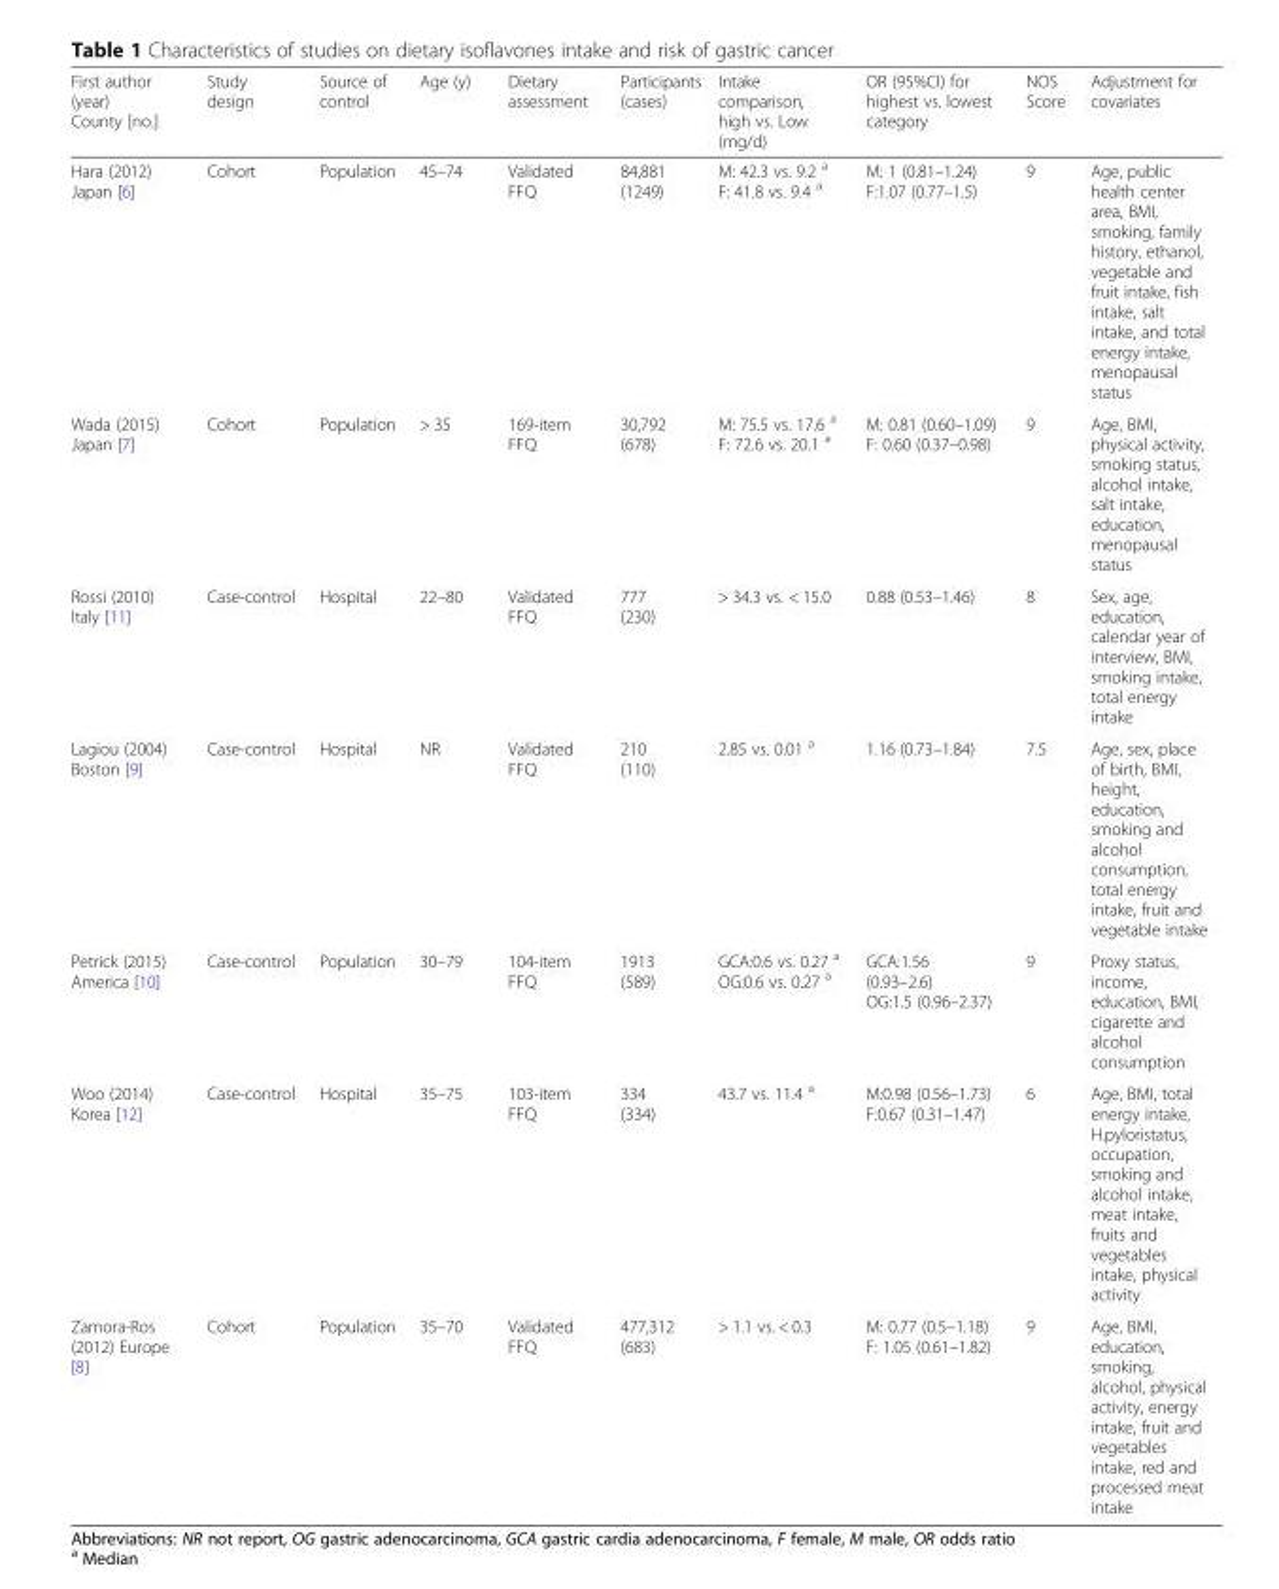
<table><thead><tr><td>First author (year) County [no.]</td><td>Study design</td><td>Source of control</td><td>Age (y)</td><td>Dietary assessment</td><td>Participants (cases)</td><td>Intake comparison, high vs. Low (mg/d)</td><td>OR (95%CI) for highest vs. lowest category</td><td>NOS Score</td><td>Adjustment for covariates</td></tr></thead><tbody><tr><td>Hara (2012) Japan [6]</td><td>Cohort</td><td>Population</td><td>45–74</td><td>Validated FFQ</td><td>84,881 (1249)</td><td>M: 42.3 vs. 9.2 <sup>a</sup> F: 41.8 vs. 9.4 <sup>a</sup></td><td>M: 1 (0.81–1.24) F:1.07 (0.77–1.5)</td><td>9</td><td>Age, public health center area, BMI, smoking, family history, ethanol, vegetable and fruit intake, fish intake, salt intake, and total energy intake, menopausal status</td></tr><tr><td>Wada (2015) Japan [7]</td><td>Cohort</td><td>Population</td><td>&gt; 35</td><td>169-item FFQ</td><td>30,792 (678)</td><td>M: 75.5 vs. 17.6 <sup>a</sup> F: 72.6 vs. 20.1 <sup>a</sup></td><td>M: 0.81 (0.60–1.09) F: 0.60 (0.37–0.98)</td><td>9</td><td>Age, BMI, physical activity, smoking status, alcohol intake, salt intake, education, menopausal status</td></tr><tr><td>Rossi (2010) Italy [11]</td><td>Case-control</td><td>Hospital</td><td>22–80</td><td>Validated FFQ</td><td>777 (230)</td><td>&gt; 34.3 vs. &lt; 15.0</td><td>0.88 (0.53–1.46)</td><td>8</td><td>Sex, age, education, calendar year of interview, BMI, smoking intake, total energy intake</td></tr><tr><td>Lagiou (2004) Boston [9]</td><td>Case-control</td><td>Hospital</td><td>NR</td><td>Validated FFQ</td><td>210 (110)</td><td>2.85 vs. 0.01 <sup>a</sup></td><td>1.16 (0.73–1.84)</td><td>7.5</td><td>Age, sex, place of birth, BMI, height, education, smoking and alcohol consumption, total energy intake, fruit and vegetable intake</td></tr><tr><td>Petrick (2015) America [10]</td><td>Case-control</td><td>Population</td><td>30–79</td><td>104-item FFQ</td><td>1913 (589)</td><td>GCA:0.6 vs. 0.27 <sup>a</sup> OG:0.6 vs. 0.27 <sup>a</sup></td><td>GCA:1.56 (0.93–2.6) OG:1.5 (0.96–2.37)</td><td>9</td><td>Proxy status, income, education, BMI, cigarette and alcohol consumption</td></tr><tr><td>Woo (2014) Korea [12]</td><td>Case-control</td><td>Hospital</td><td>35–75</td><td>103-item FFQ</td><td>334 (334)</td><td>43.7 vs. 11.4 <sup>a</sup></td><td>M:0.98 (0.56–1.73) F:0.67 (0.31–1.47)</td><td>6</td><td>Age, BMI, total energy intake, H.pyloristatus, occupation, smoking and alcohol intake, meat intake, fruits and vegetables intake, physical activity</td></tr><tr><td>Zamora-Ros (2012) Europe [8]</td><td>Cohort</td><td>Population</td><td>35–70</td><td>Validated FFQ</td><td>477,312 (683)</td><td>&gt; 1.1 vs. &lt; 0.3</td><td>M: 0.77 (0.5–1.18) F: 1.05 (0.61–1.82)</td><td>9</td><td>Age, BMI, education, smoking, alcohol, physical activity, energy intake, fruit and vegetables intake, red and processed meat intake</td></tr></tbody></table>